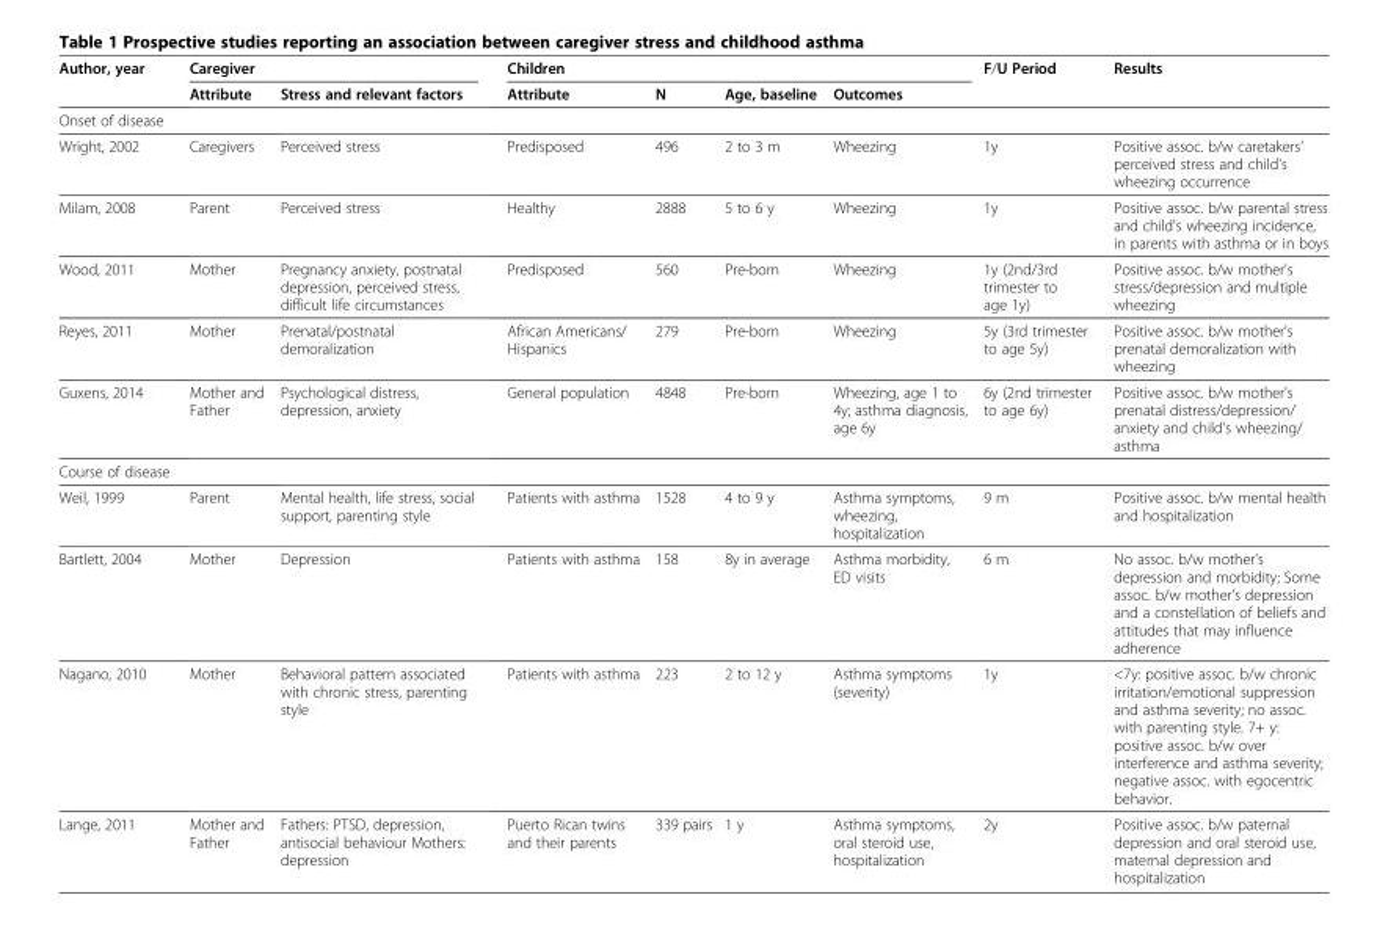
<table><thead><tr><td rowspan="2">Author, year</td><td colspan="2">Caregiver</td><td colspan="4">Children</td><td rowspan="2">F/U Period</td><td rowspan="2">Results</td></tr><tr><td>Attribute</td><td>Stress and relevant factors</td><td>Attribute</td><td>N</td><td>Age, baseline</td><td>Outcomes</td></tr></thead><tbody><tr><td colspan="9">Onset of disease</td></tr><tr><td>Wright, 2002</td><td>Caregivers</td><td>Perceived stress</td><td>Predisposed</td><td>496</td><td>2 to 3 m</td><td>Wheezing</td><td>1y</td><td>Positive assoc. b/w caretakers’ perceived stress and child&#x27;s wheezing occurrence</td></tr><tr><td>Milam, 2008</td><td>Parent</td><td>Perceived stress</td><td>Healthy</td><td>2888</td><td>5 to 6 y</td><td>Wheezing</td><td>1y</td><td>Positive assoc. b/w parental stress and child&#x27;s wheezing incidence, in parents with asthma or in boys</td></tr><tr><td>Wood, 2011</td><td>Mother</td><td>Pregnancy anxiety, postnatal depression, perceived stress, difficult life circumstances</td><td>Predisposed</td><td>560</td><td>Pre-born</td><td>Wheezing</td><td>1y (2nd/3rd trimester to age 1y)</td><td>Positive assoc. b/w mother&#x27;s stress/depression and multiple wheezing</td></tr><tr><td>Reyes, 2011</td><td>Mother</td><td>Prenatal/postnatal demoralization</td><td>African Americans/ Hispanics</td><td>279</td><td>Pre-born</td><td>Wheezing</td><td>5y (3rd trimester to age 5y)</td><td>Positive assoc. b/w mother&#x27;s prenatal demoralization with wheezing</td></tr><tr><td>Guxens, 2014</td><td>Mother and Father</td><td>Psychological distress, depression, anxiety</td><td>General population</td><td>4848</td><td>Pre-born</td><td>Wheezing, age 1 to 4y; asthma diagnosis, age 6y</td><td>6y (2nd trimester to age 6y)</td><td>Positive assoc. b/w mother&#x27;s prenatal distress/depression/ anxiety and child&#x27;s wheezing/ asthma</td></tr><tr><td colspan="9">Course of disease</td></tr><tr><td>Weil, 1999</td><td>Parent</td><td>Mental health, life stress, social support, parenting style</td><td>Patients with asthma</td><td>1528</td><td>4 to 9 y</td><td>Asthma symptoms, wheezing, hospitalization</td><td>9 m</td><td>Positive assoc. b/w mental health and hospitalization</td></tr><tr><td>Bartlett, 2004</td><td>Mother</td><td>Depression</td><td>Patients with asthma</td><td>158</td><td>8y in average</td><td>Asthma morbidity, ED visits</td><td>6 m</td><td>No assoc. b/w mother&#x27;s depression and morbidity; Some assoc. b/w mother&#x27;s depression and a constellation of beliefs and attitudes that may influence adherence</td></tr><tr><td>Nagano, 2010</td><td>Mother</td><td>Behavioral pattern associated with chronic stress, parenting style</td><td>Patients with asthma</td><td>223</td><td>2 to 12 y</td><td>Asthma symptoms (severity)</td><td>1y</td><td>&lt;7y: positive assoc. b/w chronic irritation/emotional suppression and asthma severity; no assoc. with parenting style. 7+ y: positive assoc. b/w over interference and asthma severity; negative assoc. with egocentric behavior.</td></tr><tr><td>Lange, 2011</td><td>Mother and Father</td><td>Fathers: PTSD, depression, antisocial behaviour Mothers: depression</td><td>Puerto Rican twins and their parents</td><td>339 pairs</td><td>1 y</td><td>Asthma symptoms, oral steroid use, hospitalization</td><td>2y</td><td>Positive assoc. b/w paternal depression and oral steroid use, maternal depression and hospitalization</td></tr></tbody></table>